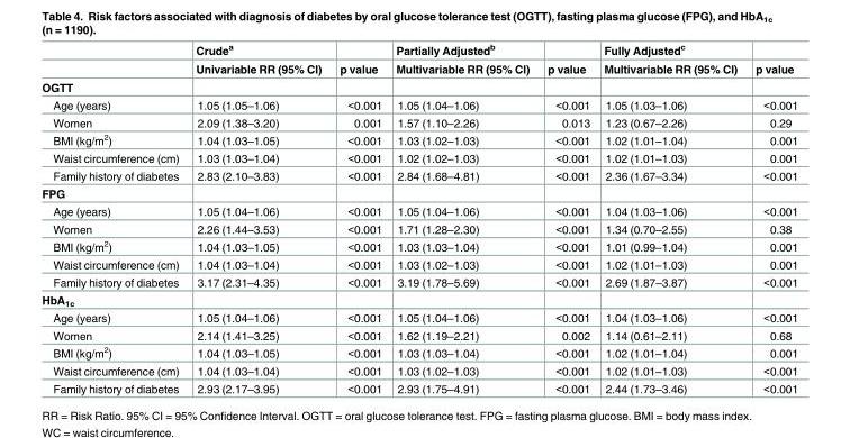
<table><thead><tr><td rowspan="2"></td><td rowspan="2">Crude<sup>a</sup> Univariable RR (95% CI)</td><td rowspan="2">p value</td><td rowspan="2">Partially Adjusted<sup>b</sup> Multivariable RR (95% CI)</td><td rowspan="2">p value</td><td rowspan="2">Fully Adjusted<sup>c</sup> Multivariable RR (95% CI)</td><td rowspan="2">p value</td></tr><tr></tr></thead><tbody><tr><td colspan="7">OGTT</td></tr><tr><td>Age (years)</td><td>1.05 (1.05–1.06)</td><td>&lt;0.001</td><td>1.05 (1.04–1.06)</td><td>&lt;0.001</td><td>1.05 (1.03–1.06)</td><td>&lt;0.001</td></tr><tr><td>Women</td><td>2.09 (1.38–3.20)</td><td>0.001</td><td>1.57 (1.10–2.26)</td><td>0.013</td><td>1.23 (0.67–2.26)</td><td>0.29</td></tr><tr><td>BMI (kg/m<sup>2</sup>)</td><td>1.04 (1.03–1.05)</td><td>&lt;0.001</td><td>1.03 (1.02–1.03)</td><td>&lt;0.001</td><td>1.02 (1.01–1.04)</td><td>0.001</td></tr><tr><td>Waist circumference (cm)</td><td>1.03 (1.03–1.04)</td><td>&lt;0.001</td><td>1.02 (1.02–1.03)</td><td>&lt;0.001</td><td>1.02 (1.01–1.03)</td><td>0.001</td></tr><tr><td>Family history of diabetes</td><td>2.83 (2.10–3.83)</td><td>&lt;0.001</td><td>2.84 (1.68–4.81)</td><td>&lt;0.001</td><td>2.36 (1.67–3.34)</td><td>&lt;0.001</td></tr><tr><td colspan="7">FPG</td></tr><tr><td>Age (years)</td><td>1.05 (1.04–1.06)</td><td>&lt;0.001</td><td>1.05 (1.04–1.06)</td><td>&lt;0.001</td><td>1.04 (1.03–1.06)</td><td>&lt;0.001</td></tr><tr><td>Women</td><td>2.26 (1.44–3.53)</td><td>&lt;0.001</td><td>1.71 (1.28–2.30)</td><td>&lt;0.001</td><td>1.34 (0.70–2.55)</td><td>0.38</td></tr><tr><td>BMI (kg/m<sup>2</sup>)</td><td>1.04 (1.03–1.05)</td><td>&lt;0.001</td><td>1.03 (1.03–1.04)</td><td>&lt;0.001</td><td>1.01 (0.99–1.04)</td><td>0.001</td></tr><tr><td>Waist circumference (cm)</td><td>1.04 (1.03–1.04)</td><td>&lt;0.001</td><td>1.03 (1.02–1.03)</td><td>&lt;0.001</td><td>1.02 (1.01–1.03)</td><td>0.001</td></tr><tr><td>Family history of diabetes</td><td>3.17 (2.31–4.35)</td><td>&lt;0.001</td><td>3.19 (1.78–5.69)</td><td>&lt;0.001</td><td>2.69 (1.87–3.87)</td><td>&lt;0.001</td></tr><tr><td colspan="7">HbA<sub>1c</sub></td></tr><tr><td>Age (years)</td><td>1.05 (1.04–1.06)</td><td>&lt;0.001</td><td>1.05 (1.04–1.06)</td><td>&lt;0.001</td><td>1.04 (1.03–1.06)</td><td>&lt;0.001</td></tr><tr><td>Women</td><td>2.14 (1.41–3.25)</td><td>&lt;0.001</td><td>1.62 (1.19–2.21)</td><td>0.002</td><td>1.14 (0.61–2.11)</td><td>0.68</td></tr><tr><td>BMI (kg/m<sup>2</sup>)</td><td>1.04 (1.03–1.05)</td><td>&lt;0.001</td><td>1.03 (1.03–1.04)</td><td>&lt;0.001</td><td>1.02 (1.01–1.04)</td><td>0.001</td></tr><tr><td>Waist circumference (cm)</td><td>1.04 (1.03–1.04)</td><td>&lt;0.001</td><td>1.03 (1.02–1.03)</td><td>&lt;0.001</td><td>1.02 (1.01–1.03)</td><td>&lt;0.001</td></tr><tr><td>Family history of diabetes</td><td>2.93 (2.17–3.95)</td><td>&lt;0.001</td><td>2.93 (1.75–4.91)</td><td>&lt;0.001</td><td>2.44 (1.73–3.46)</td><td>&lt;0.001</td></tr></tbody></table>